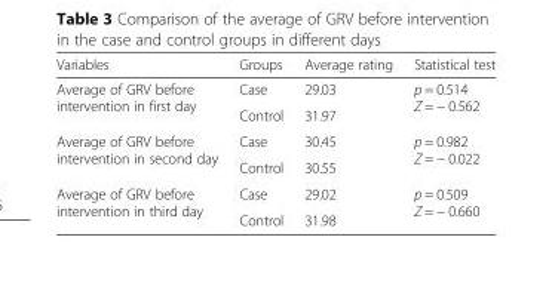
<table><thead><tr><td>Variables</td><td>Groups</td><td>Average rating</td><td>Statistical test</td></tr></thead><tbody><tr><td rowspan="2">Average of GRV before intervention in first day</td><td>Case</td><td>29.03</td><td rowspan="2">p = 0.514 Z = − 0.562</td></tr><tr><td>Control</td><td>31.97</td></tr><tr><td rowspan="2">Average of GRV before intervention in second day</td><td>Case</td><td>30.45</td><td rowspan="2">p = 0.982 Z = − 0.022</td></tr><tr><td>Control</td><td>30.55</td></tr><tr><td rowspan="2">Average of GRV before intervention in third day</td><td>Case</td><td>29.02</td><td rowspan="2">p = 0.509 Z = − 0.660</td></tr><tr><td>Control</td><td>31.98</td></tr></tbody></table>